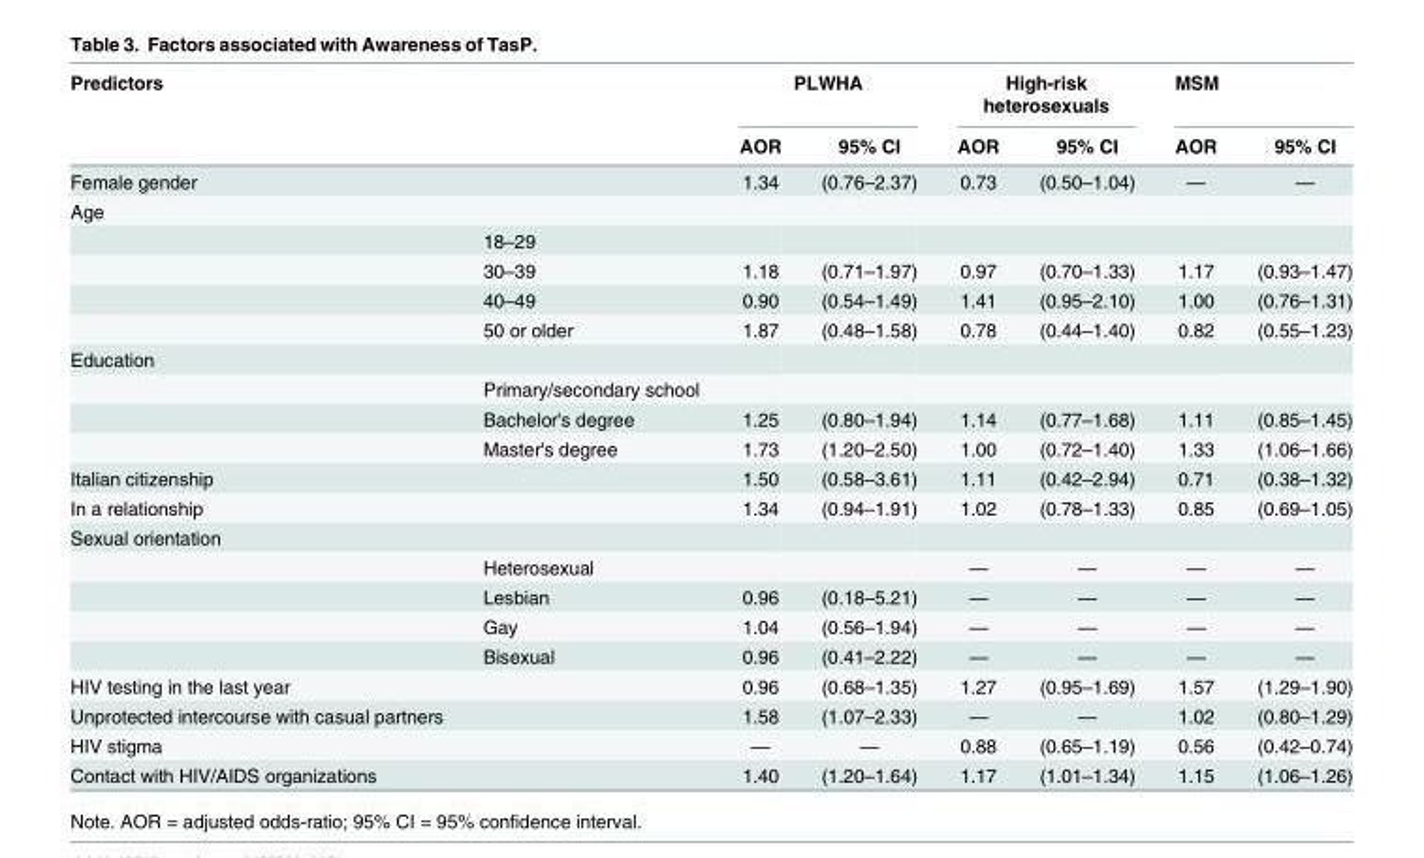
<table><thead><tr><td colspan="2">Predictors</td><td colspan="2">PLWHA</td><td colspan="2">High-risk heterosexuals</td><td colspan="2">MSM</td></tr><tr><td></td><td></td><td>AOR</td><td>95% CI</td><td>AOR</td><td>95% CI</td><td>AOR</td><td>95% CI</td></tr></thead><tbody><tr><td>Female gender</td><td></td><td>1.34</td><td>(0.76–2.37)</td><td>0.73</td><td>(0.50–1.04)</td><td>—</td><td>—</td></tr><tr><td colspan="8">Age</td></tr><tr><td></td><td>18–29</td><td></td><td></td><td></td><td></td><td></td><td></td></tr><tr><td></td><td>30–39</td><td>1.18</td><td>(0.71–1.97)</td><td>0.97</td><td>(0.70–1.33)</td><td>1.17</td><td>(0.93–1.47)</td></tr><tr><td></td><td>40–49</td><td>0.90</td><td>(0.54–1.49)</td><td>1.41</td><td>(0.95–2.10)</td><td>1.00</td><td>(0.76–1.31)</td></tr><tr><td></td><td>50 or older</td><td>1.87</td><td>(0.48–1.58)</td><td>0.78</td><td>(0.44–1.40)</td><td>0.82</td><td>(0.55–1.23)</td></tr><tr><td colspan="8">Education</td></tr><tr><td></td><td>Primary/secondary school</td><td></td><td></td><td></td><td></td><td></td><td></td></tr><tr><td></td><td>Bachelor&#x27;s degree</td><td>1.25</td><td>(0.80–1.94)</td><td>1.14</td><td>(0.77–1.68)</td><td>1.11</td><td>(0.85–1.45)</td></tr><tr><td></td><td>Master&#x27;s degree</td><td>1.73</td><td>(1.20–2.50)</td><td>1.00</td><td>(0.72–1.40)</td><td>1.33</td><td>(1.06–1.66)</td></tr><tr><td>Italian citizenship</td><td></td><td>1.50</td><td>(0.58–3.61)</td><td>1.11</td><td>(0.42–2.94)</td><td>0.71</td><td>(0.38–1.32)</td></tr><tr><td>In a relationship</td><td></td><td>1.34</td><td>(0.94–1.91)</td><td>1.02</td><td>(0.78–1.33)</td><td>0.85</td><td>(0.69–1.05)</td></tr><tr><td colspan="8">Sexual orientation</td></tr><tr><td></td><td>Heterosexual</td><td></td><td></td><td>—</td><td>—</td><td>—</td><td>—</td></tr><tr><td></td><td>Lesbian</td><td>0.96</td><td>(0.18–5.21)</td><td>—</td><td>—</td><td>—</td><td>—</td></tr><tr><td></td><td>Gay</td><td>1.04</td><td>(0.56–1.94)</td><td>—</td><td>—</td><td>—</td><td>—</td></tr><tr><td></td><td>Bisexual</td><td>0.96</td><td>(0.41–2.22)</td><td>—</td><td>—</td><td>—</td><td>—</td></tr><tr><td>HIV testing in the last year</td><td></td><td>0.96</td><td>(0.68–1.35)</td><td>1.27</td><td>(0.95–1.69)</td><td>1.57</td><td>(1.29–1.90)</td></tr><tr><td>Unprotected intercourse with casual partners</td><td></td><td>1.58</td><td>(1.07–2.33)</td><td>—</td><td>—</td><td>1.02</td><td>(0.80–1.29)</td></tr><tr><td>HIV stigma</td><td></td><td>—</td><td>—</td><td>0.88</td><td>(0.65–1.19)</td><td>0.56</td><td>(0.42–0.74)</td></tr><tr><td>Contact with HIV/AIDS organizations</td><td></td><td>1.40</td><td>(1.20–1.64)</td><td>1.17</td><td>(1.01–1.34)</td><td>1.15</td><td>(1.06–1.26)</td></tr></tbody></table>